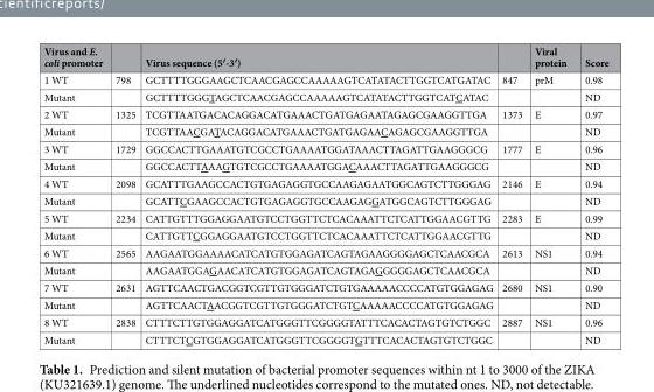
<table><thead><tr><td>Virus and E. coli promoter</td><td></td><td>Virus sequence (5′-3′)</td><td></td><td>Viral protein</td><td>Score</td></tr></thead><tbody><tr><td>1 WT</td><td>798</td><td>GCTTTTGGGAAGCTCAACGAGCCAAAAAGTCATATACTTGGTCATGATAC</td><td>847</td><td>prM</td><td>0.98</td></tr><tr><td>Mutant</td><td></td><td>GCTTTTGGGTAGCTCAACGAGCCAAAAAGTCATATACTTGGTCATCATAC</td><td></td><td></td><td>ND</td></tr><tr><td>2 WT</td><td>1325</td><td>TCGTTAATGACACAGGACATGAAACTGATGAGAATAGAGCGAAGGTTGA</td><td>1373</td><td>E</td><td>0.97</td></tr><tr><td>Mutant</td><td></td><td>TCGTTAACGATACAGGACATGAAACTGATGAGAACAGAGCGAAGGTTGA</td><td></td><td></td><td>ND</td></tr><tr><td>3 WT</td><td>1729</td><td>GGCCACTTGAAATGTCGCCTGAAAATGGATAAACTTAGATTGAAGGGCG</td><td>1777</td><td>E</td><td>0.96</td></tr><tr><td>Mutant</td><td></td><td>GGCCACTTAAAGTGTCGCCTGAAAATGGACAAACTTAGATTGAAGGGCG</td><td></td><td></td><td>ND</td></tr><tr><td>4 WT</td><td>2098</td><td>GCATTTGAAGCCACTGTGAGAGGTGCCAAGAGAATGGCAGTCTTGGGAG</td><td>2146</td><td>E</td><td>0.94</td></tr><tr><td>Mutant</td><td></td><td>GCATTCGAAGCCACTGTGAGAGGTGCCAAGAGGATGGCAGTCTTGGGAG</td><td></td><td></td><td>ND</td></tr><tr><td>5 WT</td><td>2234</td><td>CATTGTTTGGAGGAATGTCCTGGTTCTCACAAATTCTCATTGGAACGTTG</td><td>2283</td><td>E</td><td>0.99</td></tr><tr><td>Mutant</td><td></td><td>CATTGTTCGGAGGAATGTCCTGGTTCTCACAAATTCTCATTGGAACGTTG</td><td></td><td></td><td>ND</td></tr><tr><td>6 WT</td><td>2565</td><td>AAGAATGGAAAACATCATGTGGAGATCAGTAGAAGGGGAGCTCAACGCA</td><td>2613</td><td>NS1</td><td>0.94</td></tr><tr><td>Mutant</td><td></td><td>AAGAATGGAGAACATCATGTGGAGATCAGTAGAGGGGGAGCTCAACGCA</td><td></td><td></td><td>ND</td></tr><tr><td>7 WT</td><td>2631</td><td>AGTTCAACTGACGGTCGTTGTGGGATCTGTGAAAAACCCCATGTGGAGAG</td><td>2680</td><td>NS1</td><td>0.90</td></tr><tr><td>Mutant</td><td></td><td>AGTTCAACTAACGGTCGTTGTGGGATCTGTCAAAAACCCCATGTGGAGAG</td><td></td><td></td><td>ND</td></tr><tr><td>8 WT</td><td>2838</td><td>CTTTCTTGTGGAGGATCATGGGTTCGGGGTATTTCACACTAGTGTCTGGC</td><td>2887</td><td>NS1</td><td>0.96</td></tr><tr><td>Mutant</td><td></td><td>CTTTCTCGTGGAGGATCATGGGTTCGGGGTGTTTCACACTAGTGTCTGGC</td><td></td><td></td><td>ND</td></tr></tbody></table>